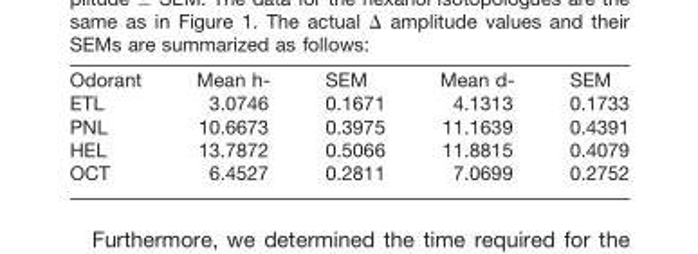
<table><thead><tr><td>Odorant</td><td>Mean h-</td><td>SEM</td><td>Mean d-</td><td>SEM</td></tr></thead><tbody><tr><td>ETL</td><td>3.0746</td><td>0.1671</td><td>4.1313</td><td>0.1733</td></tr><tr><td>PNL</td><td>10.6673</td><td>0.3975</td><td>11.1639</td><td>0.4391</td></tr><tr><td>HEL</td><td>13.7872</td><td>0.5066</td><td>11.8815</td><td>0.4079</td></tr><tr><td>OCT</td><td>6.4527</td><td>0.2811</td><td>7.0699</td><td>0.2752</td></tr></tbody></table>